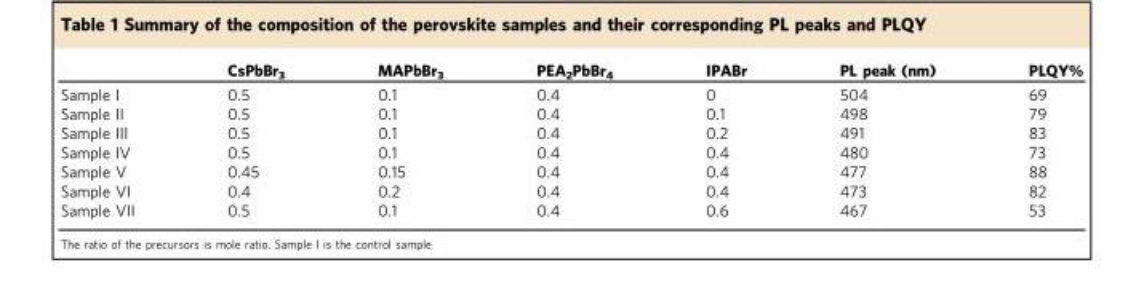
<table><thead><tr><td></td><td>CsPbBr<sub>3</sub></td><td>MAPbBr<sub>3</sub></td><td>PEA<sub>2</sub>PbBr<sub>4</sub></td><td>IPABr</td><td>PL peak (nm)</td><td>PLQY%</td></tr></thead><tbody><tr><td>Sample I</td><td>0.5</td><td>0.1</td><td>0.4</td><td>0</td><td>504</td><td>69</td></tr><tr><td>Sample II</td><td>0.5</td><td>0.1</td><td>0.4</td><td>0.1</td><td>498</td><td>79</td></tr><tr><td>Sample III</td><td>0.5</td><td>0.1</td><td>0.4</td><td>0.2</td><td>491</td><td>83</td></tr><tr><td>Sample IV</td><td>0.5</td><td>0.1</td><td>0.4</td><td>0.4</td><td>480</td><td>73</td></tr><tr><td>Sample V</td><td>0.45</td><td>0.15</td><td>0.4</td><td>0.4</td><td>477</td><td>88</td></tr><tr><td>Sample VI</td><td>0.4</td><td>0.2</td><td>0.4</td><td>0.4</td><td>473</td><td>82</td></tr><tr><td>Sample VII</td><td>0.5</td><td>0.1</td><td>0.4</td><td>0.6</td><td>467</td><td>53</td></tr></tbody></table>